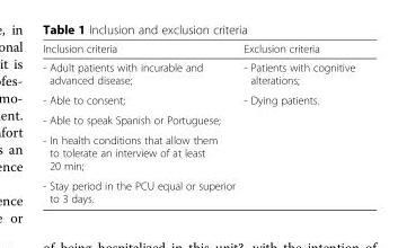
<table><thead><tr><td>Inclusion criteria</td><td>Exclusion criteria</td></tr></thead><tbody><tr><td>- Adult patients with incurable and advanced disease;</td><td>- Patients with cognitive alterations;</td></tr><tr><td>- Able to consent;</td><td rowspan="4">- Dying patients.</td></tr><tr><td>- Able to speak Spanish or Portuguese;</td></tr><tr><td>- In health conditions that allow them to tolerate an interview of at least 20 min;</td></tr><tr><td>- Stay period in the PCU equal or superior to 3 days.</td></tr></tbody></table>